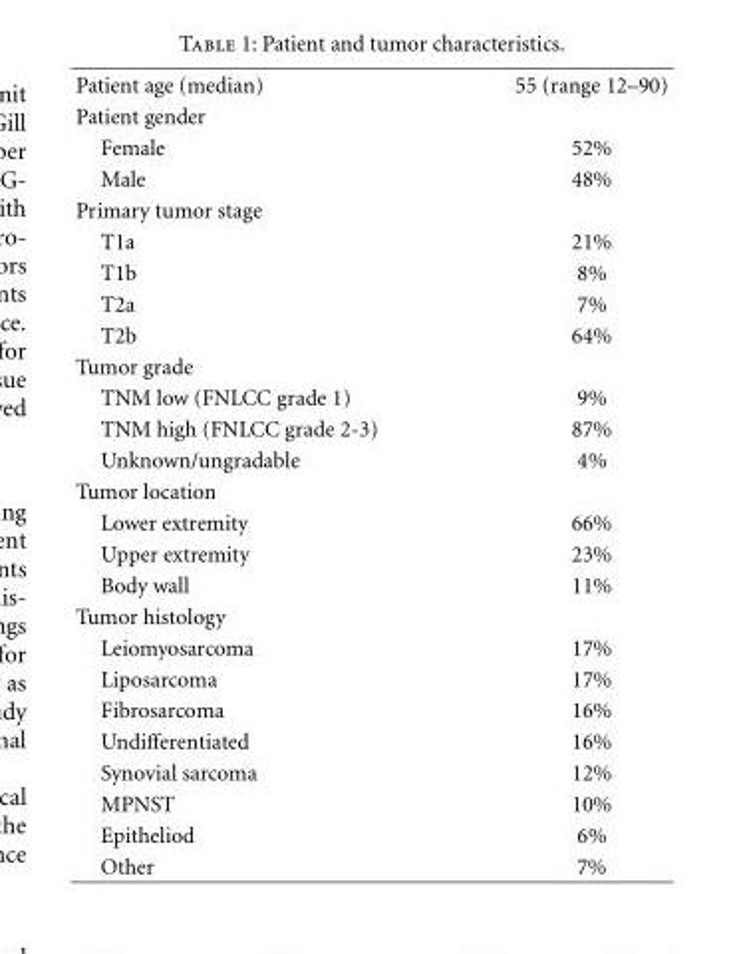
<table><tbody><tr><td>Patient age (median)</td><td>55 (range 12–90)</td></tr><tr><td colspan="2">Patient gender</td></tr><tr><td>Female</td><td>52%</td></tr><tr><td>Male</td><td>48%</td></tr><tr><td colspan="2">Primary tumor stage</td></tr><tr><td>T1a</td><td>21%</td></tr><tr><td>T1b</td><td>8%</td></tr><tr><td>T2a</td><td>7%</td></tr><tr><td>T2b</td><td>64%</td></tr><tr><td colspan="2">Tumor grade</td></tr><tr><td>TNM low (FNLCC grade 1)</td><td>9%</td></tr><tr><td>TNM high (FNLCC grade 2-3)</td><td>87%</td></tr><tr><td>Unknown/ungradable</td><td>4%</td></tr><tr><td colspan="2">Tumor location</td></tr><tr><td>Lower extremity</td><td>66%</td></tr><tr><td>Upper extremity</td><td>23%</td></tr><tr><td>Body wall</td><td>11%</td></tr><tr><td colspan="2">Tumor histology</td></tr><tr><td>Leiomyosarcoma</td><td>17%</td></tr><tr><td>Liposarcoma</td><td>17%</td></tr><tr><td>Fibrosarcoma</td><td>16%</td></tr><tr><td>Undifferentiated</td><td>16%</td></tr><tr><td>Synovial sarcoma</td><td>12%</td></tr><tr><td>MPNST</td><td>10%</td></tr><tr><td>Epitheliod</td><td>6%</td></tr><tr><td>Other</td><td>7%</td></tr></tbody></table>